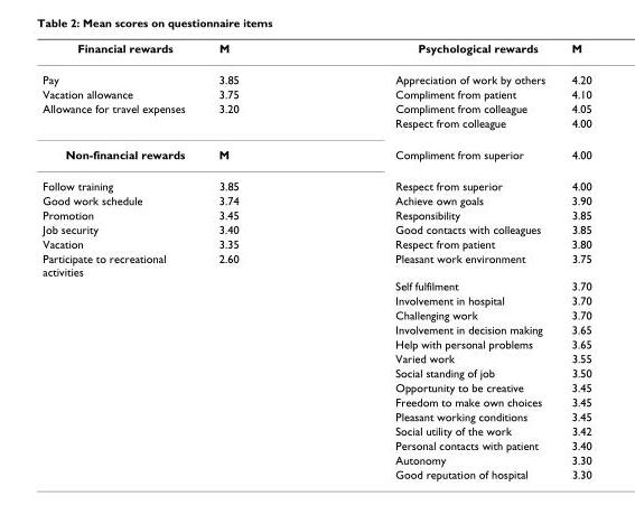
<table><thead><tr><td>Financial rewards</td><td>M</td><td>Psychological rewards</td><td>M</td></tr></thead><tbody><tr><td>Pay</td><td>3.85</td><td>Appreciation of work by others</td><td>4.20</td></tr><tr><td>Vacation allowance</td><td>3.75</td><td>Compliment from patient</td><td>4.10</td></tr><tr><td rowspan="2">Allowance for travel expenses</td><td>3.20</td><td>Compliment from colleague</td><td>4.05</td></tr><tr><td></td><td>Respect from colleague</td><td>4.00</td></tr><tr><td>Non-financial rewards</td><td>M</td><td>Compliment from superior</td><td>4.00</td></tr><tr><td>Follow training</td><td>3.85</td><td>Respect from superior</td><td>4.00</td></tr><tr><td>Good work schedule</td><td>3.74</td><td>Achieve own goals</td><td>3.90</td></tr><tr><td>Promotion</td><td>3.45</td><td>Responsibility</td><td>3.85</td></tr><tr><td>Job security</td><td>3.40</td><td>Good contacts with colleagues</td><td>3.85</td></tr><tr><td>Vacation</td><td>3.35</td><td>Respect from patient</td><td>3.80</td></tr><tr><td rowspan="15">Participate to recreational activities</td><td>2.60</td><td>Pleasant work environment</td><td>3.75</td></tr><tr><td></td><td>Self fulfilment</td><td>3.70</td></tr><tr><td></td><td>Involvement in hospital</td><td>3.70</td></tr><tr><td></td><td>Challenging work</td><td>3.70</td></tr><tr><td></td><td>Involvement in decision making</td><td>3.65</td></tr><tr><td></td><td>Help with personal problems</td><td>3.65</td></tr><tr><td></td><td>Varied work</td><td>3.55</td></tr><tr><td></td><td>Social standing of job</td><td>3.50</td></tr><tr><td></td><td>Opportunity to be creative</td><td>3.45</td></tr><tr><td></td><td>Freedom to make own choices</td><td>3.45</td></tr><tr><td></td><td>Pleasant working conditions</td><td>3.45</td></tr><tr><td></td><td>Social utility of the work</td><td>3.42</td></tr><tr><td></td><td>Personal contacts with patient</td><td>3.40</td></tr><tr><td></td><td>Autonomy</td><td>3.30</td></tr><tr><td></td><td>Good reputation of hospital</td><td>3.30</td></tr></tbody></table>